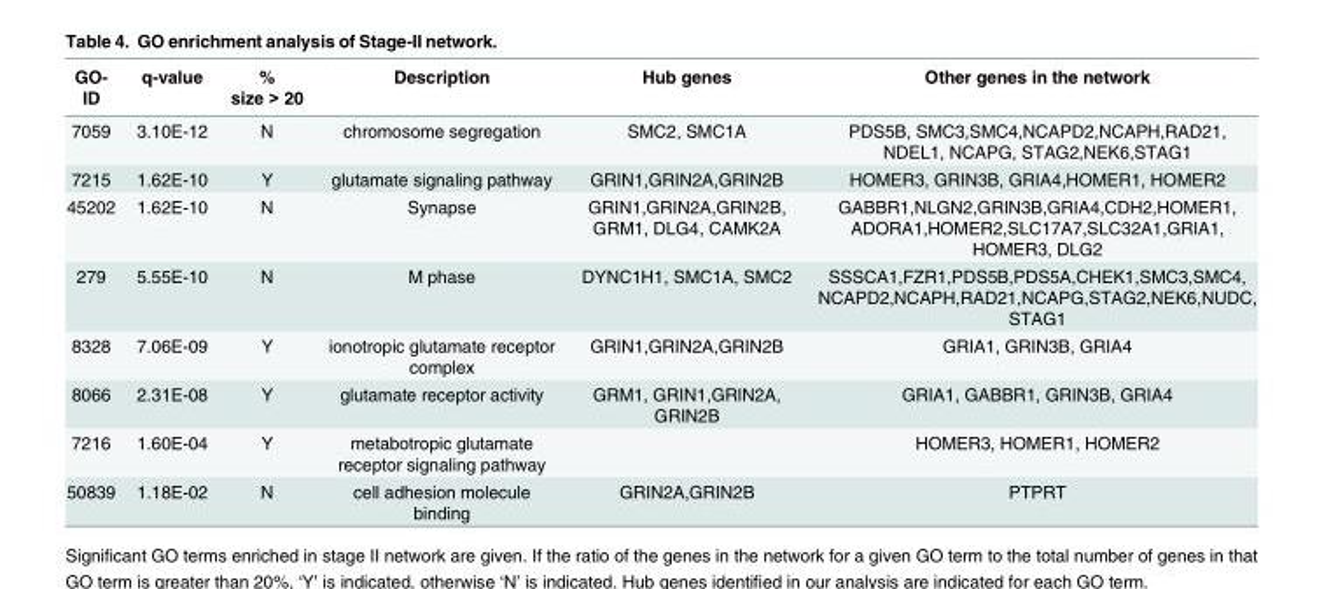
<table><thead><tr><td>GO- ID</td><td>q-value</td><td>% size &gt; 20</td><td>Description</td><td>Hub genes</td><td>Other genes in the network</td></tr></thead><tbody><tr><td>7059</td><td>3.10E-12</td><td>N</td><td>chromosome segregation</td><td>SMC2, SMC1A</td><td>PDS5B, SMC3,SMC4,NCAPD2,NCAPH,RAD21, NDEL1, NCAPG, STAG2,NEK6,STAG1</td></tr><tr><td>7215</td><td>1.62E-10</td><td>Y</td><td>glutamate signaling pathway</td><td>GRIN1,GRIN2A,GRIN2B</td><td>HOMER3, GRIN3B, GRIA4,HOMER1, HOMER2</td></tr><tr><td>45202</td><td>1.62E-10</td><td>N</td><td>Synapse</td><td>GRIN1,GRIN2A,GRIN2B, GRM1, DLG4, CAMK2A</td><td>GABBR1,NLGN2,GRIN3B,GRIA4,CDH2,HOMER1, ADORA1,HOMER2,SLC17A7,SLC32A1,GRIA1, HOMER3, DLG2</td></tr><tr><td>279</td><td>5.55E-10</td><td>N</td><td>M phase</td><td>DYNC1H1, SMC1A, SMC2</td><td>SSSCA1,FZR1,PDS5B,PDS5A,CHEK1,SMC3,SMC4, NCAPD2,NCAPH,RAD21,NCAPG,STAG2,NEK6,NUDC, STAG1</td></tr><tr><td>8328</td><td>7.06E-09</td><td>Y</td><td>ionotropic glutamate receptor complex</td><td>GRIN1,GRIN2A,GRIN2B</td><td>GRIA1, GRIN3B, GRIA4</td></tr><tr><td>8066</td><td>2.31E-08</td><td>Y</td><td>glutamate receptor activity</td><td>GRM1, GRIN1,GRIN2A, GRIN2B</td><td>GRIA1, GABBR1, GRIN3B, GRIA4</td></tr><tr><td>7216</td><td>1.60E-04</td><td>Y</td><td>metabotropic glutamate receptor signaling pathway</td><td></td><td>HOMER3, HOMER1, HOMER2</td></tr><tr><td>50839</td><td>1.18E-02</td><td>N</td><td>cell adhesion molecule binding</td><td>GRIN2A,GRIN2B</td><td>PTPRT</td></tr></tbody></table>